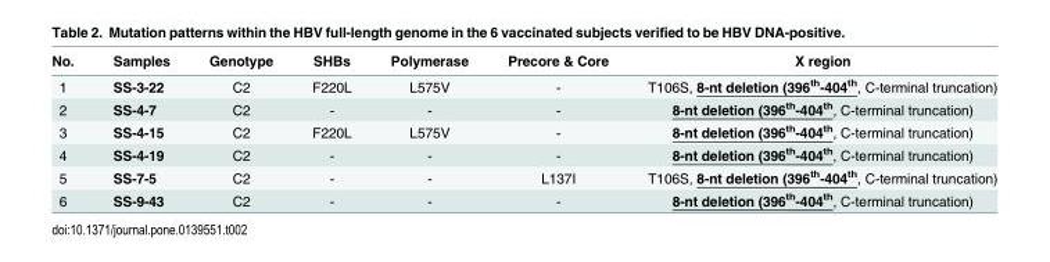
<table><thead><tr><td>No.</td><td>Samples</td><td>Genotype</td><td>SHBs</td><td>Polymerase</td><td>Precore &amp; Core</td><td>X region</td></tr></thead><tbody><tr><td>1</td><td>SS-3-22</td><td>C2</td><td>F220L</td><td>L575V</td><td>-</td><td>T106S, 8-nt deletion (396<sup>th</sup>-404<sup>th</sup>, C-terminal truncation)</td></tr><tr><td>2</td><td>SS-4-7</td><td>C2</td><td>-</td><td>-</td><td>-</td><td>8-nt deletion (396<sup>th</sup>-404<sup>th</sup>, C-terminal truncation)</td></tr><tr><td>3</td><td>SS-4-15</td><td>C2</td><td>F220L</td><td>L575V</td><td>-</td><td>8-nt deletion (396<sup>th</sup>-404<sup>th</sup>, C-terminal truncation)</td></tr><tr><td>4</td><td>SS-4-19</td><td>C2</td><td>-</td><td>-</td><td>-</td><td>8-nt deletion (396<sup>th</sup>-404<sup>th</sup>, C-terminal truncation)</td></tr><tr><td>5</td><td>SS-7-5</td><td>C2</td><td>-</td><td>-</td><td>L137I</td><td>T106S, 8-nt deletion (396<sup>th</sup>-404<sup>th</sup>, C-terminal truncation)</td></tr><tr><td>6</td><td>SS-9-43</td><td>C2</td><td>-</td><td>-</td><td>-</td><td>8-nt deletion (396<sup>th</sup>-404<sup>th</sup>, C-terminal truncation)</td></tr></tbody></table>